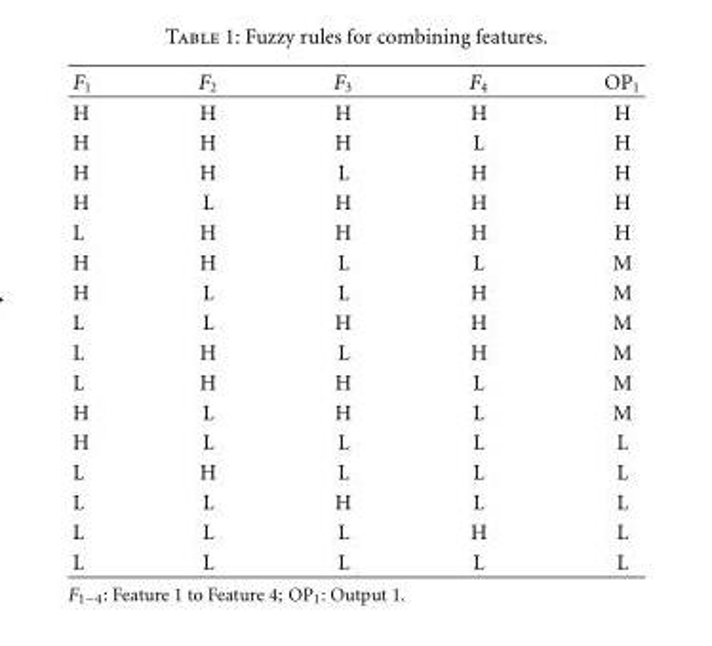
<table><thead><tr><td>F<sub>1</sub></td><td>F<sub>2</sub></td><td>F<sub>3</sub></td><td>F<sub>4</sub></td><td>OP<sub>1</sub></td></tr></thead><tbody><tr><td>H</td><td>H</td><td>H</td><td>H</td><td>H</td></tr><tr><td>H</td><td>H</td><td>H</td><td>L</td><td>H</td></tr><tr><td>H</td><td>H</td><td>L</td><td>H</td><td>H</td></tr><tr><td>H</td><td>L</td><td>H</td><td>H</td><td>H</td></tr><tr><td>L</td><td>H</td><td>H</td><td>H</td><td>H</td></tr><tr><td>H</td><td>H</td><td>L</td><td>L</td><td>M</td></tr><tr><td>H</td><td>L</td><td>L</td><td>H</td><td>M</td></tr><tr><td>L</td><td>L</td><td>H</td><td>H</td><td>M</td></tr><tr><td>L</td><td>H</td><td>L</td><td>H</td><td>M</td></tr><tr><td>L</td><td>H</td><td>H</td><td>L</td><td>M</td></tr><tr><td>H</td><td>L</td><td>H</td><td>L</td><td>M</td></tr><tr><td>H</td><td>L</td><td>L</td><td>L</td><td>L</td></tr><tr><td>L</td><td>H</td><td>L</td><td>L</td><td>L</td></tr><tr><td>L</td><td>L</td><td>H</td><td>L</td><td>L</td></tr><tr><td>L</td><td>L</td><td>L</td><td>H</td><td>L</td></tr><tr><td>L</td><td>L</td><td>L</td><td>L</td><td>L</td></tr></tbody></table>